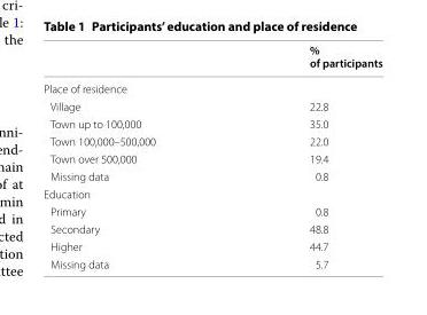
<table><thead><tr><td></td><td>% of participants</td></tr></thead><tbody><tr><td colspan="2">Place of residence</td></tr><tr><td>Village</td><td>22.8</td></tr><tr><td>Town up to 100,000</td><td>35.0</td></tr><tr><td>Town 100,000–500,000</td><td>22.0</td></tr><tr><td>Town over 500,000</td><td>19.4</td></tr><tr><td>Missing data</td><td>0.8</td></tr><tr><td colspan="2">Education</td></tr><tr><td>Primary</td><td>0.8</td></tr><tr><td>Secondary</td><td>48.8</td></tr><tr><td>Higher</td><td>44.7</td></tr><tr><td>Missing data</td><td>5.7</td></tr></tbody></table>